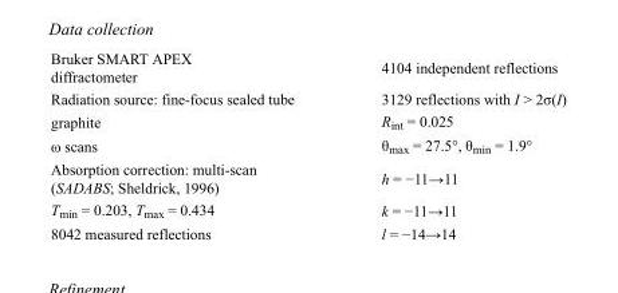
<table><tbody><tr><td>Bruker SMART APEX diffractometer</td><td>4104 independent reflections</td></tr><tr><td>Radiation source: fine-focus sealed tube</td><td>3129 reflections with I &gt; 2σ(I)</td></tr><tr><td>graphite</td><td>R<sub>int</sub> = 0.025</td></tr><tr><td>ω scans</td><td>θ<sub>max</sub> = 27.5°, θ<sub>min</sub> = 1.9°</td></tr><tr><td>Absorption correction: multi-scan (SADABS; Sheldrick, 1996)</td><td>h = −11→11</td></tr><tr><td>T<sub>min</sub> = 0.203, T<sub>max</sub> = 0.434</td><td>k = −11→11</td></tr><tr><td>8042 measured reflections</td><td>l = −14→14</td></tr></tbody></table>